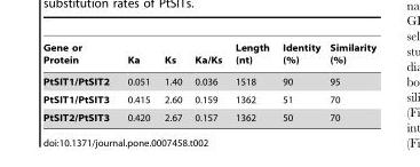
<table><thead><tr><td>Gene or Protein</td><td>Ka</td><td>Ks</td><td>Ka/Ks</td><td>Length (nt)</td><td>Identity (%)</td><td>Similarity (%)</td></tr></thead><tbody><tr><td>PtSIT1/PtSIT2</td><td>0.051</td><td>1.40</td><td>0.036</td><td>1518</td><td>90</td><td>95</td></tr><tr><td>PtSIT1/PtSIT3</td><td>0.415</td><td>2.60</td><td>0.159</td><td>1362</td><td>51</td><td>70</td></tr><tr><td>PtSIT2/PtSIT3</td><td>0.420</td><td>2.67</td><td>0.157</td><td>1362</td><td>50</td><td>70</td></tr></tbody></table>